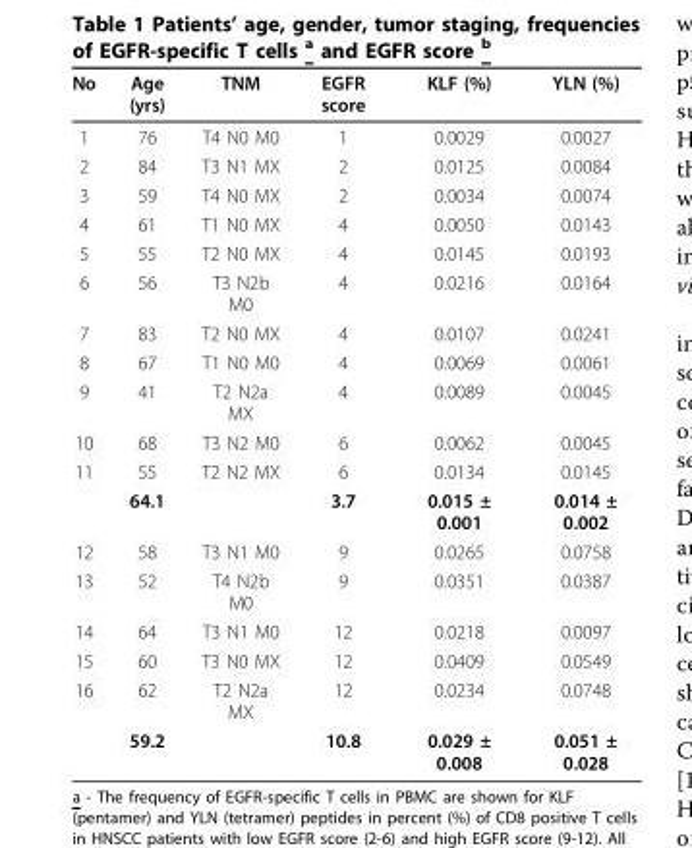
<table><thead><tr><td>No</td><td>Age (yrs)</td><td>TNM</td><td>EGFR score</td><td>KLF (%)</td><td>YLN (%)</td></tr></thead><tbody><tr><td>1</td><td>76</td><td>T4 N0 M0</td><td>1</td><td>0.0029</td><td>0.0027</td></tr><tr><td>2</td><td>84</td><td>T3 N1 MX</td><td>2</td><td>0.0125</td><td>0.0084</td></tr><tr><td>3</td><td>59</td><td>T4 N0 MX</td><td>2</td><td>0.0034</td><td>0.0074</td></tr><tr><td>4</td><td>61</td><td>T1 N0 MX</td><td>4</td><td>0.0050</td><td>0.0143</td></tr><tr><td>5</td><td>55</td><td>T2 N0 MX</td><td>4</td><td>0.0145</td><td>0.0193</td></tr><tr><td>6</td><td>56</td><td>T3 N2b M0</td><td>4</td><td>0.0216</td><td>0.0164</td></tr><tr><td>7</td><td>83</td><td>T2 N0 MX</td><td>4</td><td>0.0107</td><td>0.0241</td></tr><tr><td>8</td><td>67</td><td>T1 N0 M0</td><td>4</td><td>0.0069</td><td>0.0061</td></tr><tr><td>9</td><td>41</td><td>T2 N2a MX</td><td>4</td><td>0.0089</td><td>0.0045</td></tr><tr><td>10</td><td>68</td><td>T3 N2 M0</td><td>6</td><td>0.0062</td><td>0.0045</td></tr><tr><td rowspan="2">11</td><td>55</td><td>T2 N2 MX</td><td>6</td><td>0.0134</td><td>0.0145</td></tr><tr><td>64.1</td><td></td><td>3.7</td><td>0.015 ± 0.001</td><td>0.014 ± 0.002</td></tr><tr><td>12</td><td>58</td><td>T3 N1 M0</td><td>9</td><td>0.0265</td><td>0.0758</td></tr><tr><td>13</td><td>52</td><td>T4 N2b M0</td><td>9</td><td>0.0351</td><td>0.0387</td></tr><tr><td>14</td><td>64</td><td>T3 N1 M0</td><td>12</td><td>0.0218</td><td>0.0097</td></tr><tr><td>15</td><td>60</td><td>T3 N0 MX</td><td>12</td><td>0.0409</td><td>0.0549</td></tr><tr><td rowspan="2">16</td><td>62</td><td>T2 N2a MX</td><td>12</td><td>0.0234</td><td>0.0748</td></tr><tr><td>59.2</td><td></td><td>10.8</td><td>0.029 ± 0.008</td><td>0.051 ± 0.028</td></tr></tbody></table>